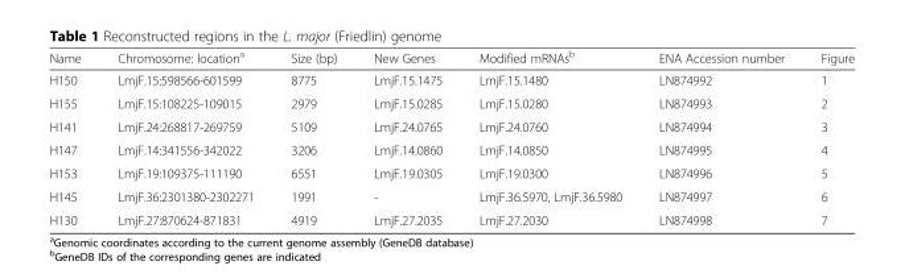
<table><thead><tr><td>Name</td><td>Chromosome: location<sup>a</sup></td><td>Size (bp)</td><td>New Genes</td><td>Modified mRNAs<sup>b</sup></td><td>ENA Accession number</td><td>Figure</td></tr></thead><tbody><tr><td>H150</td><td>LmjF.15:598566-601599</td><td>8775</td><td>LmjF.15.1475</td><td>LmjF.15.1480</td><td>LN874992</td><td>1</td></tr><tr><td>H155</td><td>LmjF.15:108225-109015</td><td>2979</td><td>LmjF.15.0285</td><td>LmjF.15.0280</td><td>LN874993</td><td>2</td></tr><tr><td>H141</td><td>LmjF.24:268817-269759</td><td>5109</td><td>LmjF.24.0765</td><td>LmjF.24.0760</td><td>LN874994</td><td>3</td></tr><tr><td>H147</td><td>LmjF.14:341556-342022</td><td>3206</td><td>LmjF.14.0860</td><td>LmjF.14.0850</td><td>LN874995</td><td>4</td></tr><tr><td>H153</td><td>LmjF.19:109375-111190</td><td>6551</td><td>LmjF.19.0305</td><td>LmjF.19.0300</td><td>LN874996</td><td>5</td></tr><tr><td>H145</td><td>LmjF.36:2301380-2302271</td><td>1991</td><td>-</td><td>LmjF.36.5970, LmjF.36.5980</td><td>LN874997</td><td>6</td></tr><tr><td>H130</td><td>LmjF.27:870624-871831</td><td>4919</td><td>LmjF.27.2035</td><td>LmjF.27.2030</td><td>LN874998</td><td>7</td></tr></tbody></table>